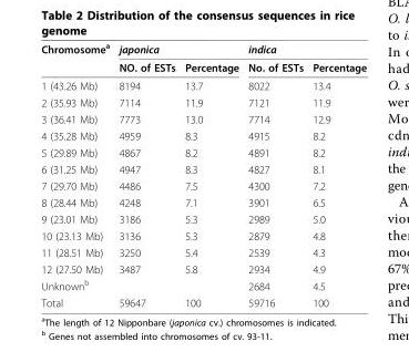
<table><tbody><tr><td rowspan="2">Chromosome<sup>a</sup></td><td>japonica</td><td></td><td colspan="2">indica</td></tr><tr><td>NO. of ESTs</td><td>Percentage</td><td>No. of ESTs</td><td>Percentage</td></tr><tr><td>1 (43.26 Mb)</td><td>8194</td><td>13.7</td><td>8022</td><td>13.4</td></tr><tr><td>2 (35.93 Mb)</td><td>7114</td><td>11.9</td><td>7121</td><td>11.9</td></tr><tr><td>3 (36.41 Mb)</td><td>7773</td><td>13.0</td><td>7714</td><td>12.9</td></tr><tr><td>4 (35.28 Mb)</td><td>4959</td><td>8.3</td><td>4915</td><td>8.2</td></tr><tr><td>5 (29.89 Mb)</td><td>4867</td><td>8.2</td><td>4891</td><td>8.2</td></tr><tr><td>6 (31.25 Mb)</td><td>4947</td><td>8.3</td><td>4827</td><td>8.1</td></tr><tr><td>7 (29.70 Mb)</td><td>4486</td><td>7.5</td><td>4300</td><td>7.2</td></tr><tr><td>8 (28.44 Mb)</td><td>4248</td><td>7.1</td><td>3901</td><td>6.5</td></tr><tr><td>9 (23.01 Mb)</td><td>3186</td><td>5.3</td><td>2989</td><td>5.0</td></tr><tr><td>10 (23.13 Mb)</td><td>3136</td><td>5.3</td><td>2879</td><td>4.8</td></tr><tr><td>11 (28.51 Mb)</td><td>3250</td><td>5.4</td><td>2539</td><td>4.3</td></tr><tr><td>12 (27.50 Mb)</td><td>3487</td><td>5.8</td><td>2934</td><td>4.9</td></tr><tr><td>Unknown<sup>b</sup></td><td></td><td></td><td>2684</td><td>4.5</td></tr><tr><td>Total</td><td>59647</td><td>100</td><td>59716</td><td>100</td></tr></tbody></table>